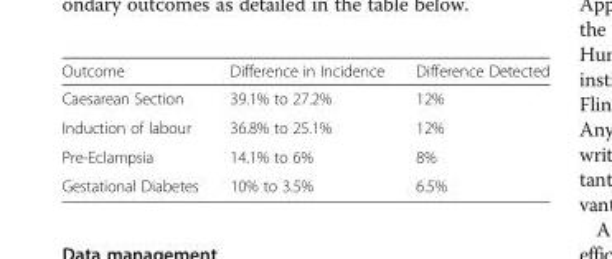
<table><thead><tr><td>Outcome</td><td>Difference in Incidence</td><td>Difference Detected</td></tr></thead><tbody><tr><td>Caesarean Section</td><td>39.1% to 27.2%</td><td>12%</td></tr><tr><td>Induction of labour</td><td>36.8% to 25.1%</td><td>12%</td></tr><tr><td>Pre-Eclampsia</td><td>14.1% to 6%</td><td>8%</td></tr><tr><td>Gestational Diabetes</td><td>10% to 3.5%</td><td>6.5%</td></tr></tbody></table>